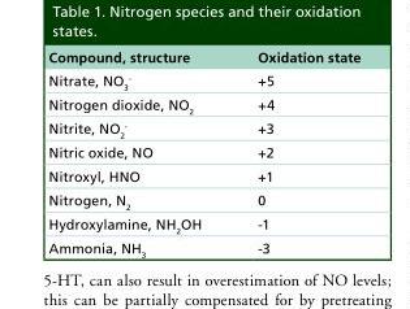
<table><thead><tr><td>Compound, structure</td><td>Oxidation state</td></tr></thead><tbody><tr><td>Nitrate, NO<sub>3</sub> <sup>-</sup></td><td>+5</td></tr><tr><td>Nitrogen dioxide, NO<sub>2</sub></td><td>+4</td></tr><tr><td>Nitrite, NO<sub>2</sub> <sup>-</sup></td><td>+3</td></tr><tr><td>Nitric oxide, NO</td><td>+2</td></tr><tr><td>Nitroxyl, HNO</td><td>+1</td></tr><tr><td>Nitrogen, N<sub>2</sub></td><td>0</td></tr><tr><td>Hydroxylamine, NH<sub>2</sub>OH</td><td>-1</td></tr><tr><td>Ammonia, NH<sub>3</sub></td><td>-3</td></tr></tbody></table>